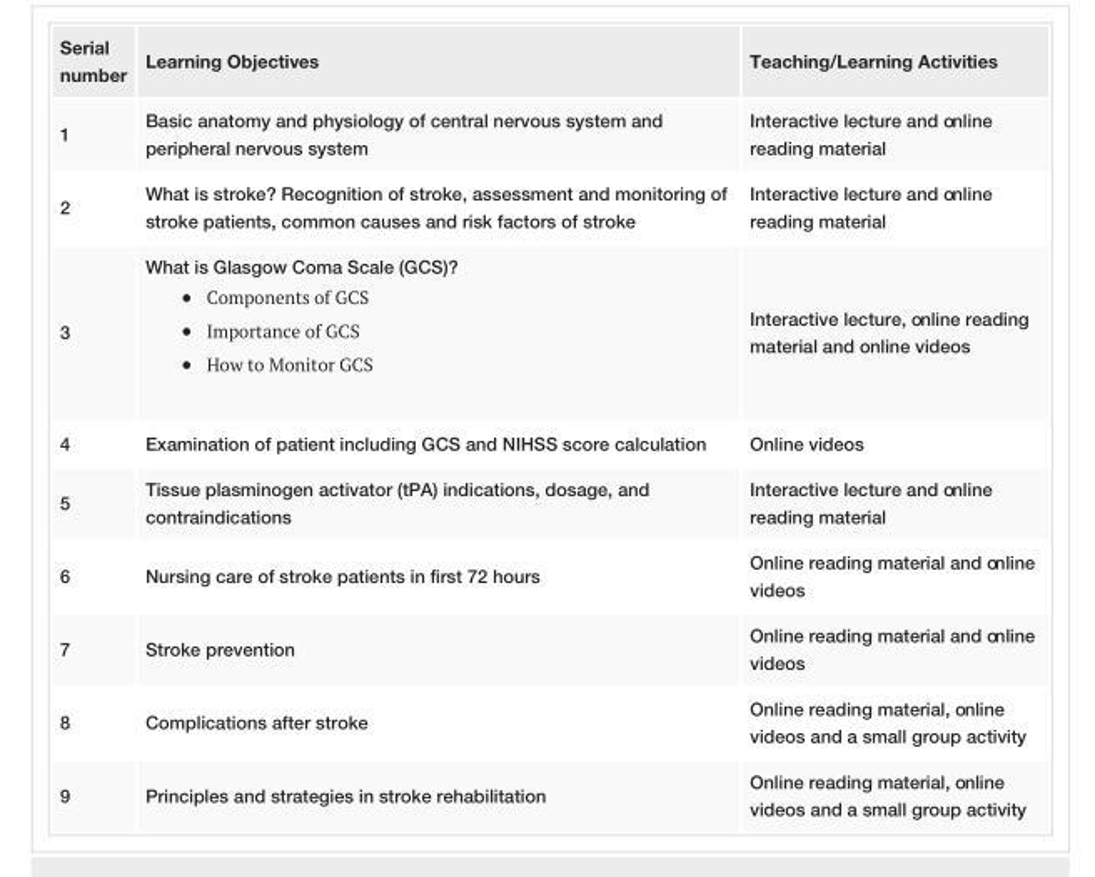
<table><tbody><tr><td>number</td><td>Learning Objectives</td><td>Teaching/Learning Activities</td></tr><tr><td>1</td><td>Basic anatomy and physiology of central nervous system and peripheral nervous system</td><td>Interactive lecture and online reading material</td></tr><tr><td>2</td><td>What is stroke? Recognition of stroke, assessment and monitoring of stroke patients, common causes and risk factors of stroke</td><td>Interactive lecture and online reading material</td></tr><tr><td>3</td><td>What is Glasgow Coma Scale (GCS)? Components of GCS Importance of GCS How to Monitor GCS</td><td>Interactive lecture, online reading material and online videos</td></tr><tr><td>4</td><td>Examination of patient including GCS and NIHSS score calculation</td><td>Online videos</td></tr><tr><td>5</td><td>Tissue plasminogen activator (tPA) indications, dosage, and contraindications</td><td>Interactive lecture and online reading material</td></tr><tr><td>6</td><td>Nursing care of stroke patients in first 72 hours</td><td>Online reading material and online videos</td></tr><tr><td>7</td><td>Stroke prevention</td><td>Online reading material and online videos</td></tr><tr><td>8</td><td>Complications after stroke</td><td>Online reading material, online videos and a small group activity</td></tr><tr><td>9</td><td>Principles and strategies in stroke rehabilitation</td><td>Online reading material, online videos and a small group activity</td></tr></tbody></table>